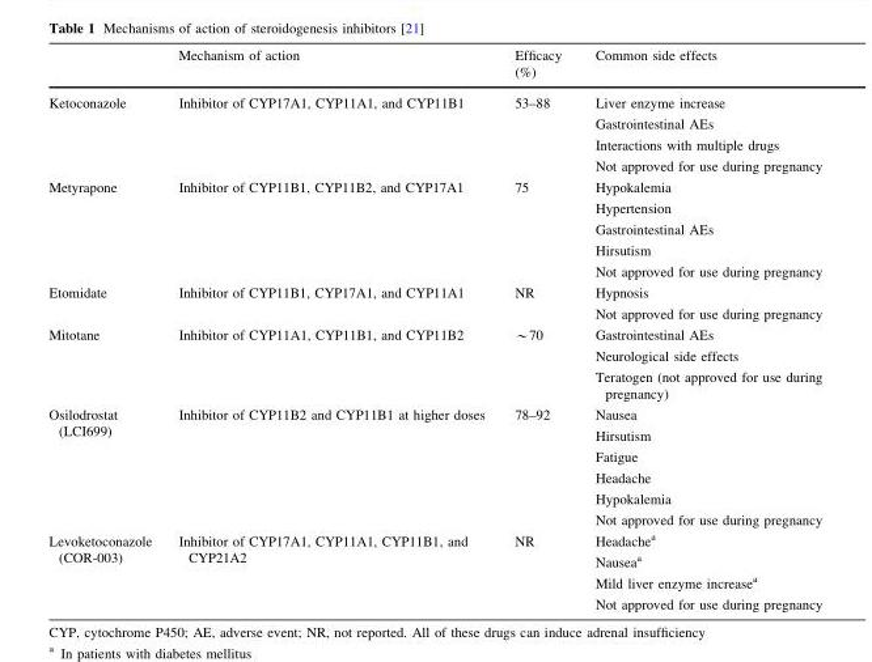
<table><thead><tr><td></td><td>Mechanism of action</td><td>Efficacy (%)</td><td>Common side effects</td></tr></thead><tbody><tr><td rowspan="4">Ketoconazole</td><td rowspan="4">Inhibitor of CYP17A1, CYP11A1, and CYP11B1</td><td rowspan="4">53–88</td><td>Liver enzyme increase</td></tr><tr><td>Gastrointestinal AEs</td></tr><tr><td>Interactions with multiple drugs</td></tr><tr><td>Not approved for use during pregnancy</td></tr><tr><td rowspan="5">Metyrapone</td><td rowspan="5">Inhibitor of CYP11B1, CYP11B2, and CYP17A1</td><td rowspan="5">75</td><td>Hypokalemia</td></tr><tr><td>Hypertension</td></tr><tr><td>Gastrointestinal AEs</td></tr><tr><td>Hirsutism</td></tr><tr><td>Not approved for use during pregnancy</td></tr><tr><td rowspan="2">Etomidate</td><td rowspan="2">Inhibitor of CYP11B1, CYP17A1, and CYP11A1</td><td rowspan="2">NR</td><td>Hypnosis</td></tr><tr><td>Not approved for use during pregnancy</td></tr><tr><td rowspan="3">Mitotane</td><td rowspan="3">Inhibitor of CYP11A1, CYP11B1, and CYP11B2</td><td rowspan="3">*70</td><td>Gastrointestinal AEs</td></tr><tr><td>Neurological side effects</td></tr><tr><td>Teratogen (not approved for use during pregnancy)</td></tr><tr><td rowspan="6">Osilodrostat (LCI699)</td><td rowspan="6">Inhibitor of CYP11B2 and CYP11B1 at higher doses</td><td rowspan="6">78–92</td><td>Nausea</td></tr><tr><td>Hirsutism</td></tr><tr><td>Fatigue</td></tr><tr><td>Headache</td></tr><tr><td>Hypokalemia</td></tr><tr><td>Not approved for use during pregnancy</td></tr><tr><td rowspan="4">Levoketoconazole (COR-003)</td><td rowspan="4">Inhibitor of CYP17A1, CYP11A1, CYP11B1, and CYP21A2</td><td rowspan="4">NR</td><td>Headache<sup>a</sup></td></tr><tr><td>Nausea<sup>a</sup></td></tr><tr><td>Mild liver enzyme increase<sup>a</sup></td></tr><tr><td>Not approved for use during pregnancy</td></tr></tbody></table>